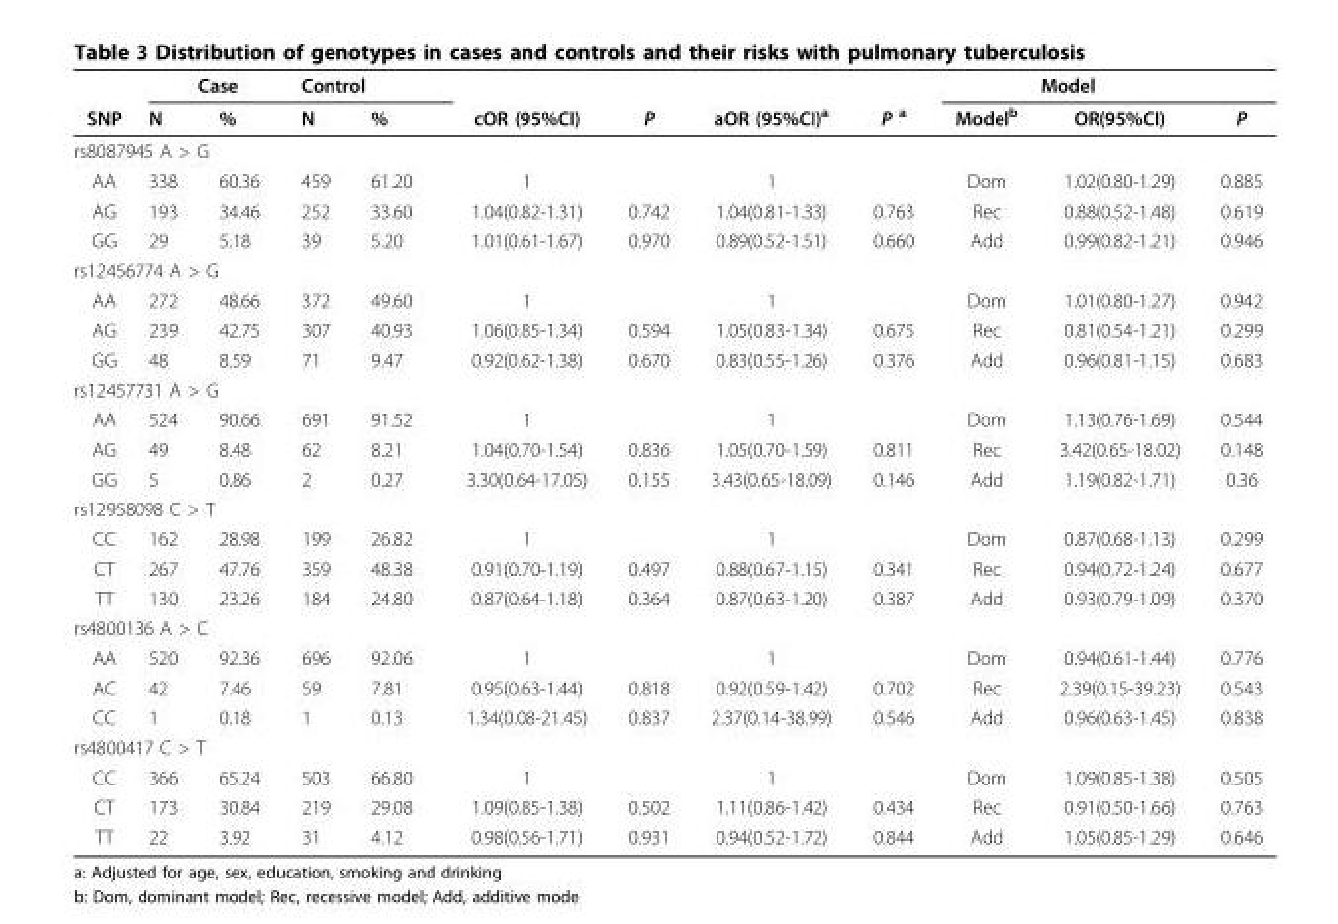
<table><thead><tr><td rowspan="2">SNP</td><td colspan="2">Case</td><td colspan="2">Control</td><td rowspan="2">cOR (95%CI)</td><td rowspan="2">P</td><td rowspan="2">aOR (95%CI)<sup>a</sup></td><td rowspan="2">P <sup>a</sup></td><td colspan="2">Model</td><td rowspan="2">P</td></tr><tr><td>N</td><td>%</td><td>N</td><td>%</td><td>Model<sup>b</sup></td><td>OR(95%CI)</td></tr></thead><tbody><tr><td colspan="12">rs8087945 A &gt; G</td></tr><tr><td>AA</td><td>338</td><td>60.36</td><td>459</td><td>61.20</td><td>1</td><td></td><td>1</td><td></td><td>Dom</td><td>1.02(0.80-1.29)</td><td>0.885</td></tr><tr><td>AG</td><td>193</td><td>34.46</td><td>252</td><td>33.60</td><td>1.04(0.82-1.31)</td><td>0.742</td><td>1.04(0.81-1.33)</td><td>0.763</td><td>Rec</td><td>0.88(0.52-1.48)</td><td>0.619</td></tr><tr><td>GG</td><td>29</td><td>5.18</td><td>39</td><td>5.20</td><td>1.01(0.61-1.67)</td><td>0.970</td><td>0.89(0.52-1.51)</td><td>0.660</td><td>Add</td><td>0.99(0.82-1.21)</td><td>0.946</td></tr><tr><td colspan="12">rs12456774 A &gt; G</td></tr><tr><td>AA</td><td>272</td><td>48.66</td><td>372</td><td>49.60</td><td>1</td><td></td><td>1</td><td></td><td>Dom</td><td>1.01(0.80-1.27)</td><td>0.942</td></tr><tr><td>AG</td><td>239</td><td>42.75</td><td>307</td><td>40.93</td><td>1.06(0.85-1.34)</td><td>0.594</td><td>1.05(0.83-1.34)</td><td>0.675</td><td>Rec</td><td>0.81(0.54-1.21)</td><td>0.299</td></tr><tr><td>GG</td><td>48</td><td>8.59</td><td>71</td><td>9.47</td><td>0.92(0.62-1.38)</td><td>0.670</td><td>0.83(0.55-1.26)</td><td>0.376</td><td>Add</td><td>0.96(0.81-1.15)</td><td>0.683</td></tr><tr><td colspan="12">rs12457731 A &gt; G</td></tr><tr><td>AA</td><td>524</td><td>90.66</td><td>691</td><td>91.52</td><td>1</td><td></td><td>1</td><td></td><td>Dom</td><td>1.13(0.76-1.69)</td><td>0.544</td></tr><tr><td>AG</td><td>49</td><td>8.48</td><td>62</td><td>8.21</td><td>1.04(0.70-1.54)</td><td>0.836</td><td>1.05(0.70-1.59)</td><td>0.811</td><td>Rec</td><td>3.42(0.65-18.02)</td><td>0.148</td></tr><tr><td>GG</td><td>5</td><td>0.86</td><td>2</td><td>0.27</td><td>3.30(0.64-17.05)</td><td>0.155</td><td>3.43(0.65-18.09)</td><td>0.146</td><td>Add</td><td>1.19(0.82-1.71)</td><td>0.36</td></tr><tr><td colspan="12">rs12958098 C &gt; T</td></tr><tr><td>CC</td><td>162</td><td>28.98</td><td>199</td><td>26.82</td><td>1</td><td></td><td>1</td><td></td><td>Dom</td><td>0.87(0.68-1.13)</td><td>0.299</td></tr><tr><td>CT</td><td>267</td><td>47.76</td><td>359</td><td>48.38</td><td>0.91(0.70-1.19)</td><td>0.497</td><td>0.88(0.67-1.15)</td><td>0.341</td><td>Rec</td><td>0.94(0.72-1.24)</td><td>0.677</td></tr><tr><td>TT</td><td>130</td><td>23.26</td><td>184</td><td>24.80</td><td>0.87(0.64-1.18)</td><td>0.364</td><td>0.87(0.63-1.20)</td><td>0.387</td><td>Add</td><td>0.93(0.79-1.09)</td><td>0.370</td></tr><tr><td colspan="12">rs4800136 A &gt; C</td></tr><tr><td>AA</td><td>520</td><td>92.36</td><td>696</td><td>92.06</td><td>1</td><td></td><td>1</td><td></td><td>Dom</td><td>0.94(0.61-1.44)</td><td>0.776</td></tr><tr><td>AC</td><td>42</td><td>7.46</td><td>59</td><td>7.81</td><td>0.95(0.63-1.44)</td><td>0.818</td><td>0.92(0.59-1.42)</td><td>0.702</td><td>Rec</td><td>2.39(0.15-39.23)</td><td>0.543</td></tr><tr><td>CC</td><td>1</td><td>0.18</td><td>1</td><td>0.13</td><td>1.34(0.08-21.45)</td><td>0.837</td><td>2.37(0.14-38.99)</td><td>0.546</td><td>Add</td><td>0.96(0.63-1.45)</td><td>0.838</td></tr><tr><td colspan="12">rs4800417 C &gt; T</td></tr><tr><td>CC</td><td>366</td><td>65.24</td><td>503</td><td>66.80</td><td>1</td><td></td><td>1</td><td></td><td>Dom</td><td>1.09(0.85-1.38)</td><td>0.505</td></tr><tr><td>CT</td><td>173</td><td>30.84</td><td>219</td><td>29.08</td><td>1.09(0.85-1.38)</td><td>0.502</td><td>1.11(0.86-1.42)</td><td>0.434</td><td>Rec</td><td>0.91(0.50-1.66)</td><td>0.763</td></tr><tr><td>TT</td><td>22</td><td>3.92</td><td>31</td><td>4.12</td><td>0.98(0.56-1.71)</td><td>0.931</td><td>0.94(0.52-1.72)</td><td>0.844</td><td>Add</td><td>1.05(0.85-1.29)</td><td>0.646</td></tr></tbody></table>